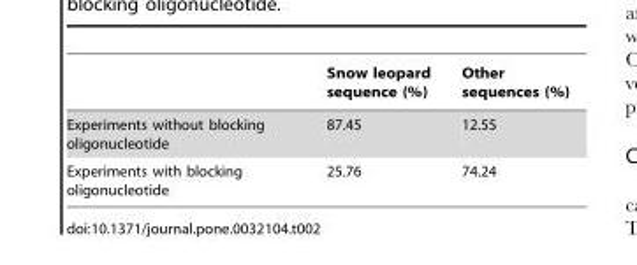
<table><thead><tr><td></td><td>Snow leopard sequence (%)</td><td>Other sequences (%)</td></tr></thead><tbody><tr><td>Experiments without blocking oligonucleotide</td><td>87.45</td><td>12.55</td></tr><tr><td>Experiments with blocking oligonucleotide</td><td>25.76</td><td>74.24</td></tr></tbody></table>